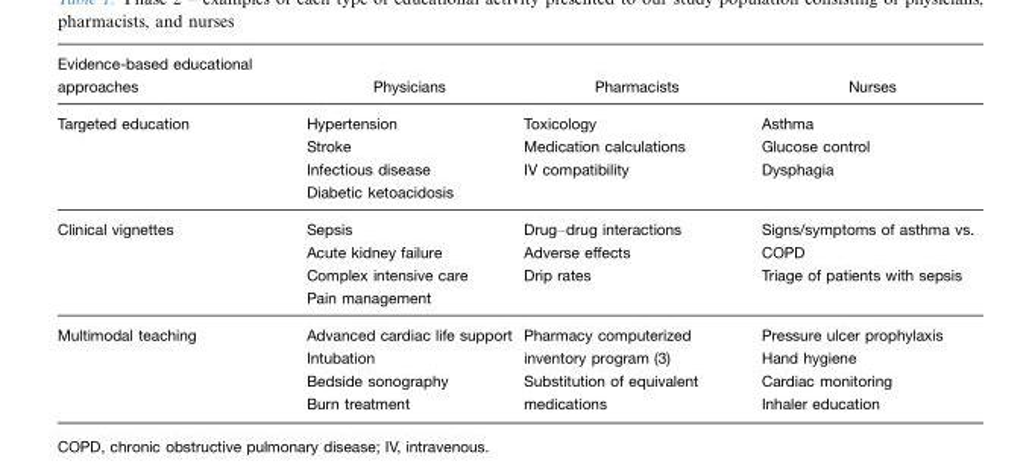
<table><thead><tr><td>Evidence-based educational approaches</td><td>Physicians</td><td>Pharmacists</td><td>Nurses</td></tr></thead><tbody><tr><td>Targeted education</td><td>Hypertension Stroke Infectious disease Diabetic ketoacidosis</td><td>Toxicology Medication calculations IV compatibility</td><td>Asthma Glucose control Dysphagia</td></tr><tr><td>Clinical vignettes</td><td>Sepsis Acute kidney failure Complex intensive care Pain management</td><td>Drug–drug interactions Adverse effects Drip rates</td><td>Signs/symptoms of asthma vs. COPD Triage of patients with sepsis</td></tr><tr><td>Multimodal teaching</td><td>Advanced cardiac life support Intubation Bedside sonography Burn treatment</td><td>Pharmacy computerized inventory program (3) Substitution of equivalent medications</td><td>Pressure ulcer prophylaxis Hand hygiene Cardiac monitoring Inhaler education</td></tr></tbody></table>